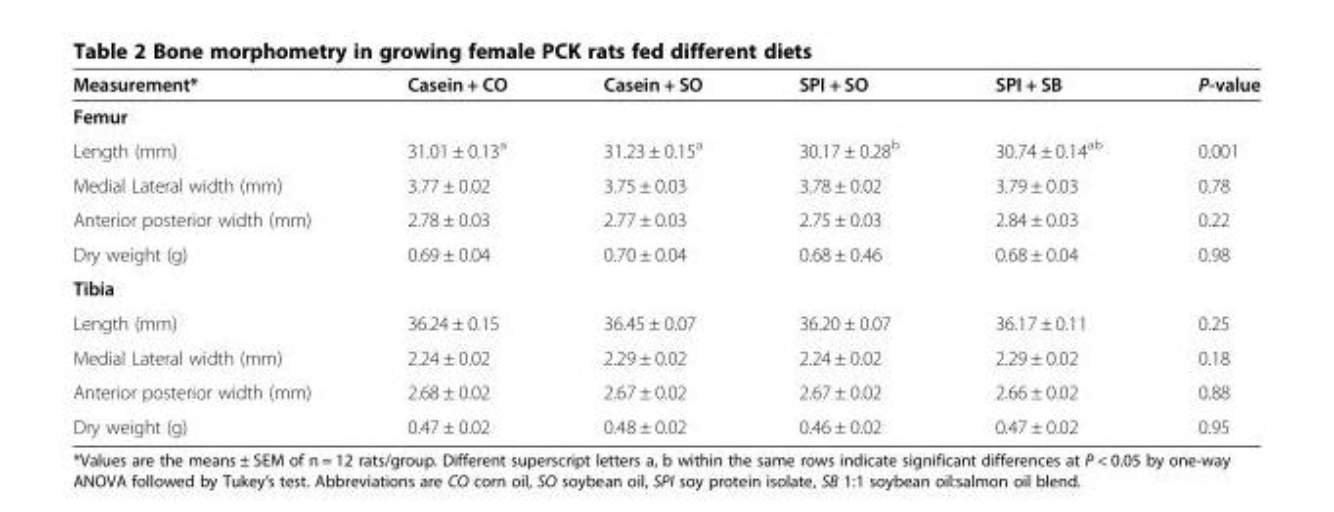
<table><thead><tr><td>Measurement*</td><td>Casein + CO</td><td>Casein + SO</td><td>SPI + SO</td><td>SPI + SB</td><td>P-value</td></tr></thead><tbody><tr><td colspan="6">Femur</td></tr><tr><td>Length (mm)</td><td>31.01 ± 0.13<sup>a</sup></td><td>31.23 ± 0.15<sup>a</sup></td><td>30.17 ± 0.28<sup>b</sup></td><td>30.74 ± 0.14<sup>ab</sup></td><td>0.001</td></tr><tr><td>Medial Lateral width (mm)</td><td>3.77 ± 0.02</td><td>3.75 ± 0.03</td><td>3.78 ± 0.02</td><td>3.79 ± 0.03</td><td>0.78</td></tr><tr><td>Anterior posterior width (mm)</td><td>2.78 ± 0.03</td><td>2.77 ± 0.03</td><td>2.75 ± 0.03</td><td>2.84 ± 0.03</td><td>0.22</td></tr><tr><td>Dry weight (g)</td><td>0.69 ± 0.04</td><td>0.70 ± 0.04</td><td>0.68 ± 0.46</td><td>0.68 ± 0.04</td><td>0.98</td></tr><tr><td colspan="6">Tibia</td></tr><tr><td>Length (mm)</td><td>36.24 ± 0.15</td><td>36.45 ± 0.07</td><td>36.20 ± 0.07</td><td>36.17 ± 0.11</td><td>0.25</td></tr><tr><td>Medial Lateral width (mm)</td><td>2.24 ± 0.02</td><td>2.29 ± 0.02</td><td>2.24 ± 0.02</td><td>2.29 ± 0.02</td><td>0.18</td></tr><tr><td>Anterior posterior width (mm)</td><td>2.68 ± 0.02</td><td>2.67 ± 0.02</td><td>2.67 ± 0.02</td><td>2.66 ± 0.02</td><td>0.88</td></tr><tr><td>Dry weight (g)</td><td>0.47 ± 0.02</td><td>0.48 ± 0.02</td><td>0.46 ± 0.02</td><td>0.47 ± 0.02</td><td>0.95</td></tr></tbody></table>